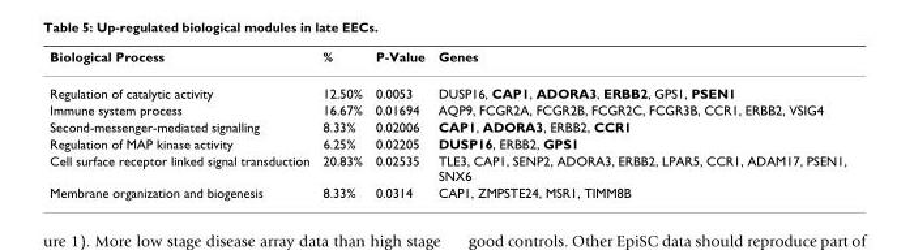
<table><thead><tr><td>Biological Process</td><td>%</td><td>P-Value</td><td>Genes</td></tr></thead><tbody><tr><td>Regulation of catalytic activity</td><td>12.50%</td><td>0.0053</td><td>DUSP16, CAP1, ADORA3, ERBB2, GPS1, PSEN1</td></tr><tr><td>Immune system process</td><td>16.67%</td><td>0.01694</td><td>AQP9, FCGR2A, FCGR2B, FCGR2C, FCGR3B, CCR1, ERBB2, VSIG4</td></tr><tr><td>Second-messenger-mediated signalling</td><td>8.33%</td><td>0.02006</td><td>CAP1, ADORA3, ERBB2, CCR1</td></tr><tr><td>Regulation of MAP kinase activity</td><td>6.25%</td><td>0.02205</td><td>DUSP16, ERBB2, GPS1</td></tr><tr><td>Cell surface receptor linked signal transduction</td><td>20.83%</td><td>0.02535</td><td>TLE3, CAP1, SENP2, ADORA3, ERBB2, LPAR5, CCR1, ADAM17, PSEN1, SNX6</td></tr><tr><td>Membrane organization and biogenesis</td><td>8.33%</td><td>0.0314</td><td>CAP1, ZMPSTE24, MSR1, TIMM8B</td></tr></tbody></table>